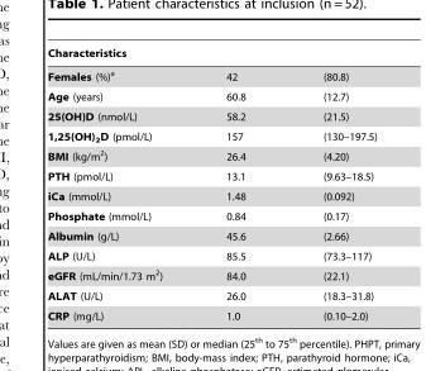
<table><thead><tr><td>Characteristics</td><td></td><td></td></tr></thead><tbody><tr><td>Females (%)<sup>a</sup></td><td>42</td><td>(80.8)</td></tr><tr><td>Age (years)</td><td>60.8</td><td>(12.7)</td></tr><tr><td>25(OH)D (nmol/L)</td><td>58.2</td><td>(21.5)</td></tr><tr><td>1,25(OH)<sub>2</sub>D (pmol/L)</td><td>157</td><td>(130–197.5)</td></tr><tr><td>BMI (kg/m<sup>2</sup>)</td><td>26.4</td><td>(4.20)</td></tr><tr><td>PTH (pmol/L)</td><td>13.1</td><td>(9.63–18.5)</td></tr><tr><td>iCa (mmol/L)</td><td>1.48</td><td>(0.092)</td></tr><tr><td>Phosphate (mmol/L)</td><td>0.84</td><td>(0.17)</td></tr><tr><td>Albumin (g/L)</td><td>45.6</td><td>(2.66)</td></tr><tr><td>ALP (U/L)</td><td>85.5</td><td>(73.3–117)</td></tr><tr><td>eGFR (mL/min/1.73 m<sup>2</sup>)</td><td>84.0</td><td>(22.1)</td></tr><tr><td>ALAT (U/L)</td><td>26.0</td><td>(18.3–31.8)</td></tr><tr><td>CRP (mg/L)</td><td>1.0</td><td>(0.10–2.0)</td></tr></tbody></table>